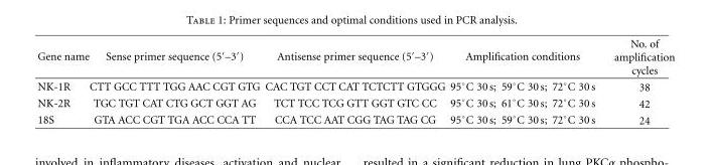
<table><thead><tr><td>Gene name</td><td>Sense primer sequence (5′–3′)</td><td>Antisense primer sequence (5′–3′)</td><td>Amplification conditions</td><td>No. of amplification cycles</td></tr></thead><tbody><tr><td>NK-1R</td><td>CTT GCC TTT TGG AAC CGT GTG</td><td>CAC TGT CCT CAT TCTCTT GTGGG</td><td>95◦C 30s; 59◦C 30s; 72◦C 30s</td><td>38</td></tr><tr><td>NK-2R</td><td>TGC TGT CAT CTG GCT GGT AG</td><td>TCT TCC TCG GTT GGT GTC CC</td><td>95◦C 30s; 61◦C 30s; 72◦C 30s</td><td>42</td></tr><tr><td>18S</td><td>GTA ACC CGT TGA ACC CCA TT</td><td>CCA TCC AAT CGG TAG TAG CG</td><td>95◦C 30s; 59◦C 30s; 72◦C 30s</td><td>24</td></tr></tbody></table>